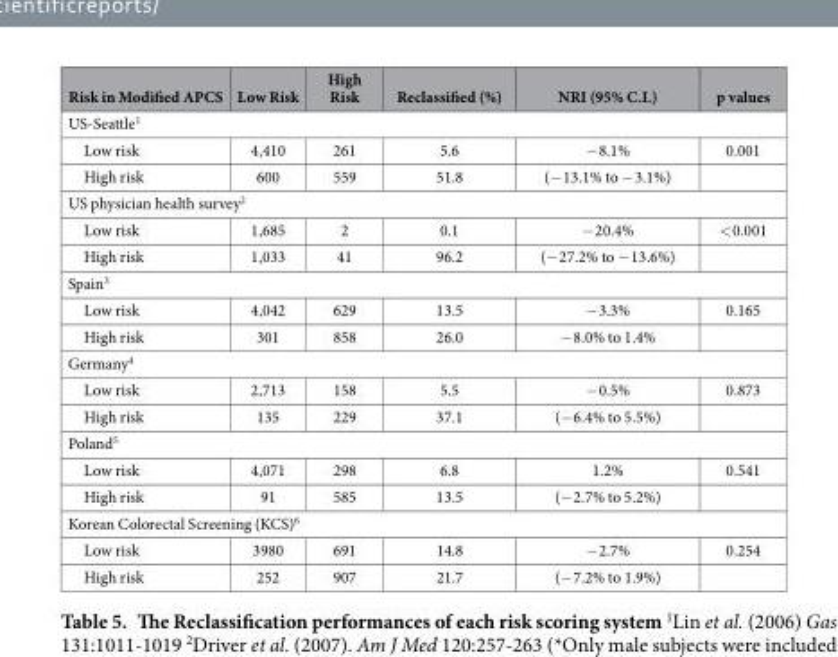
<table><thead><tr><td>Risk in Modified APCS</td><td>Low Risk</td><td>High Risk</td><td>Reclassified (%)</td><td>NRI (95% C.I.)</td><td>p values</td></tr></thead><tbody><tr><td colspan="6">US-Seattle<sup>1</sup></td></tr><tr><td>Low risk</td><td>4,410</td><td>261</td><td>5.6</td><td>− 8.1%</td><td>0.001</td></tr><tr><td>High risk</td><td>600</td><td>559</td><td>51.8</td><td>(− 13.1% to − 3.1%)</td><td></td></tr><tr><td colspan="6">US physician health survey<sup>2</sup></td></tr><tr><td>Low risk</td><td>1,685</td><td>2</td><td>0.1</td><td>− 20.4%</td><td>&lt; 0.001</td></tr><tr><td>High risk</td><td>1,033</td><td>41</td><td>96.2</td><td>(− 27.2% to − 13.6%)</td><td></td></tr><tr><td colspan="6">Spain<sup>3</sup></td></tr><tr><td>Low risk</td><td>4,042</td><td>629</td><td>13.5</td><td>− 3.3%</td><td>0.165</td></tr><tr><td>High risk</td><td>301</td><td>858</td><td>26.0</td><td>− 8.0% to 1.4%</td><td></td></tr><tr><td colspan="6">Germany<sup>4</sup></td></tr><tr><td>Low risk</td><td>2,713</td><td>158</td><td>5.5</td><td>− 0.5%</td><td>0.873</td></tr><tr><td>High risk</td><td>135</td><td>229</td><td>37.1</td><td>(− 6.4% to 5.5%)</td><td></td></tr><tr><td colspan="6">Poland<sup>5</sup></td></tr><tr><td>Low risk</td><td>4,071</td><td>298</td><td>6.8</td><td>1.2%</td><td>0.541</td></tr><tr><td>High risk</td><td>91</td><td>585</td><td>13.5</td><td>(− 2.7% to 5.2%)</td><td></td></tr><tr><td colspan="6">Korean Colorectal Screening (KCS)<sup>6</sup></td></tr><tr><td>Low risk</td><td>3980</td><td>691</td><td>14.8</td><td>− 2.7%</td><td>0.254</td></tr><tr><td>High risk</td><td>252</td><td>907</td><td>21.7</td><td>(− 7.2% to 1.9%)</td><td></td></tr></tbody></table>